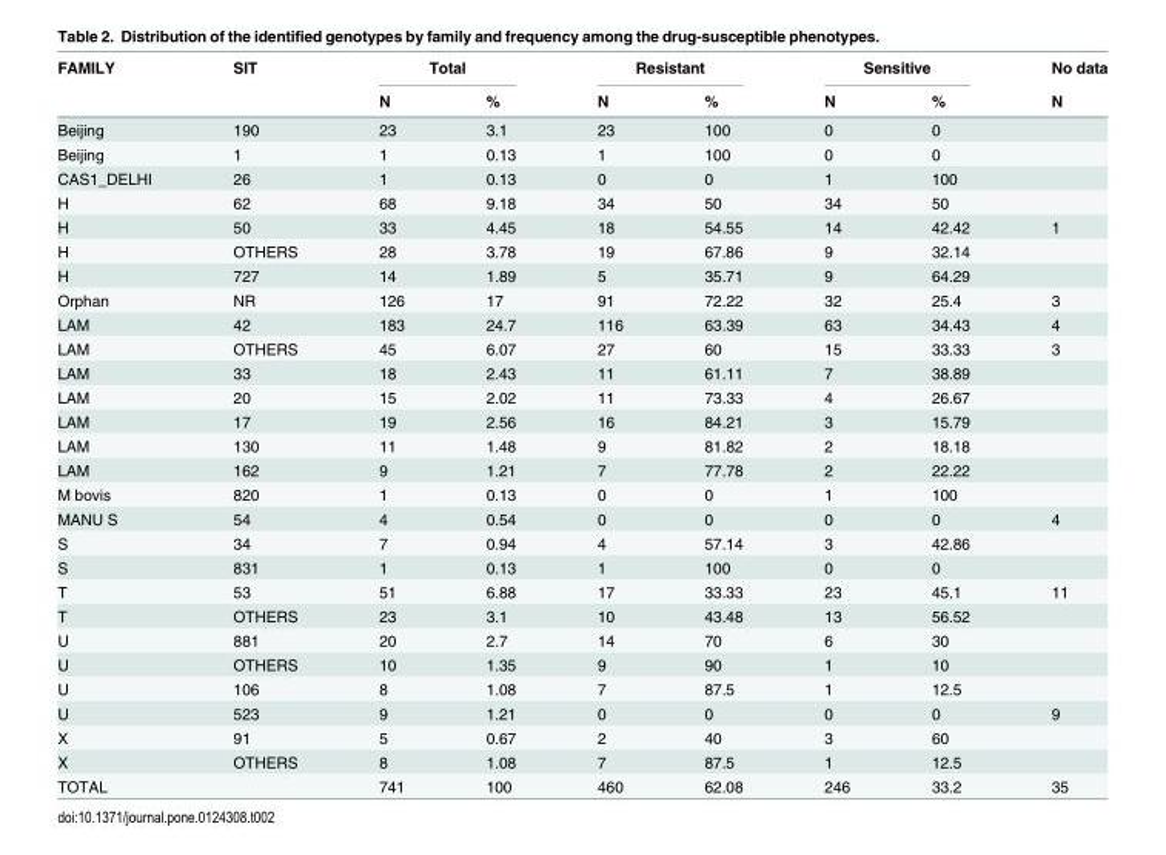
<table><thead><tr><td rowspan="2">FAMILY</td><td rowspan="2">SIT</td><td colspan="2">Total</td><td colspan="2">Resistant</td><td colspan="2">Sensitive</td><td rowspan="2">No data N</td></tr><tr><td>N</td><td>%</td><td>N</td><td>%</td><td>N</td><td>%</td></tr></thead><tbody><tr><td>Beijing</td><td>190</td><td>23</td><td>3.1</td><td>23</td><td>100</td><td>0</td><td>0</td><td></td></tr><tr><td>Beijing</td><td>1</td><td>1</td><td>0.13</td><td>1</td><td>100</td><td>0</td><td>0</td><td></td></tr><tr><td>CAS1_DELHI</td><td>26</td><td>1</td><td>0.13</td><td>0</td><td>0</td><td>1</td><td>100</td><td></td></tr><tr><td>H</td><td>62</td><td>68</td><td>9.18</td><td>34</td><td>50</td><td>34</td><td>50</td><td></td></tr><tr><td>H</td><td>50</td><td>33</td><td>4.45</td><td>18</td><td>54.55</td><td>14</td><td>42.42</td><td>1</td></tr><tr><td>H</td><td>OTHERS</td><td>28</td><td>3.78</td><td>19</td><td>67.86</td><td>9</td><td>32.14</td><td></td></tr><tr><td>H</td><td>727</td><td>14</td><td>1.89</td><td>5</td><td>35.71</td><td>9</td><td>64.29</td><td></td></tr><tr><td>Orphan</td><td>NR</td><td>126</td><td>17</td><td>91</td><td>72.22</td><td>32</td><td>25.4</td><td>3</td></tr><tr><td>LAM</td><td>42</td><td>183</td><td>24.7</td><td>116</td><td>63.39</td><td>63</td><td>34.43</td><td>4</td></tr><tr><td>LAM</td><td>OTHERS</td><td>45</td><td>6.07</td><td>27</td><td>60</td><td>15</td><td>33.33</td><td>3</td></tr><tr><td>LAM</td><td>33</td><td>18</td><td>2.43</td><td>11</td><td>61.11</td><td>7</td><td>38.89</td><td></td></tr><tr><td>LAM</td><td>20</td><td>15</td><td>2.02</td><td>11</td><td>73.33</td><td>4</td><td>26.67</td><td></td></tr><tr><td>LAM</td><td>17</td><td>19</td><td>2.56</td><td>16</td><td>84.21</td><td>3</td><td>15.79</td><td></td></tr><tr><td>LAM</td><td>130</td><td>11</td><td>1.48</td><td>9</td><td>81.82</td><td>2</td><td>18.18</td><td></td></tr><tr><td>LAM</td><td>162</td><td>9</td><td>1.21</td><td>7</td><td>77.78</td><td>2</td><td>22.22</td><td></td></tr><tr><td>M bovis</td><td>820</td><td>1</td><td>0.13</td><td>0</td><td>0</td><td>1</td><td>100</td><td></td></tr><tr><td>MANU S</td><td>54</td><td>4</td><td>0.54</td><td>0</td><td>0</td><td>0</td><td>0</td><td>4</td></tr><tr><td>S</td><td>34</td><td>7</td><td>0.94</td><td>4</td><td>57.14</td><td>3</td><td>42.86</td><td></td></tr><tr><td>S</td><td>831</td><td>1</td><td>0.13</td><td>1</td><td>100</td><td>0</td><td>0</td><td></td></tr><tr><td>T</td><td>53</td><td>51</td><td>6.88</td><td>17</td><td>33.33</td><td>23</td><td>45.1</td><td>11</td></tr><tr><td>T</td><td>OTHERS</td><td>23</td><td>3.1</td><td>10</td><td>43.48</td><td>13</td><td>56.52</td><td></td></tr><tr><td>U</td><td>881</td><td>20</td><td>2.7</td><td>14</td><td>70</td><td>6</td><td>30</td><td></td></tr><tr><td>U</td><td>OTHERS</td><td>10</td><td>1.35</td><td>9</td><td>90</td><td>1</td><td>10</td><td></td></tr><tr><td>U</td><td>106</td><td>8</td><td>1.08</td><td>7</td><td>87.5</td><td>1</td><td>12.5</td><td></td></tr><tr><td>U</td><td>523</td><td>9</td><td>1.21</td><td>0</td><td>0</td><td>0</td><td>0</td><td>9</td></tr><tr><td>X</td><td>91</td><td>5</td><td>0.67</td><td>2</td><td>40</td><td>3</td><td>60</td><td></td></tr><tr><td>X</td><td>OTHERS</td><td>8</td><td>1.08</td><td>7</td><td>87.5</td><td>1</td><td>12.5</td><td></td></tr><tr><td>TOTAL</td><td></td><td>741</td><td>100</td><td>460</td><td>62.08</td><td>246</td><td>33.2</td><td>35</td></tr></tbody></table>